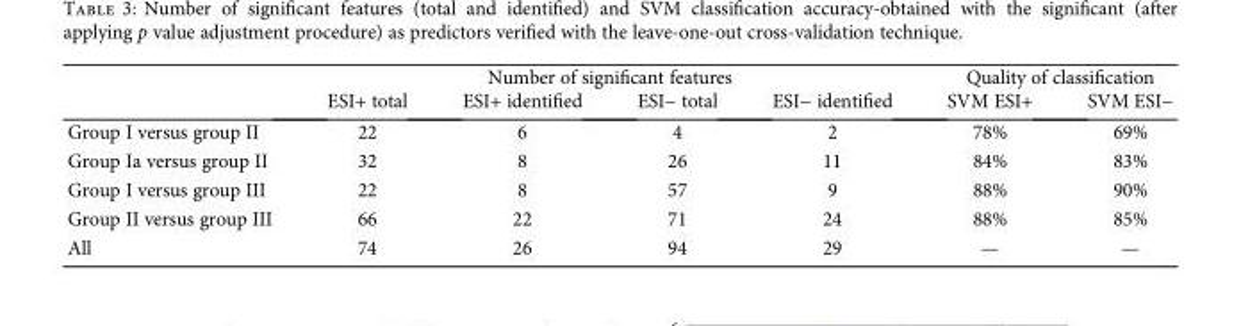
<table><thead><tr><td rowspan="2"></td><td colspan="4">Number of significant features</td><td colspan="2">Quality of classification</td></tr><tr><td>ESI+ total</td><td>ESI+ identified</td><td>ESI− total</td><td>ESI− identified</td><td>SVM ESI+</td><td>SVM ESI−</td></tr></thead><tbody><tr><td>Group I versus group II</td><td>22</td><td>6</td><td>4</td><td>2</td><td>78%</td><td>69%</td></tr><tr><td>Group Ia versus group II</td><td>32</td><td>8</td><td>26</td><td>11</td><td>84%</td><td>83%</td></tr><tr><td>Group I versus group III</td><td>22</td><td>8</td><td>57</td><td>9</td><td>88%</td><td>90%</td></tr><tr><td>Group II versus group III</td><td>66</td><td>22</td><td>71</td><td>24</td><td>88%</td><td>85%</td></tr><tr><td>All</td><td>74</td><td>26</td><td>94</td><td>29</td><td>—</td><td>—</td></tr></tbody></table>